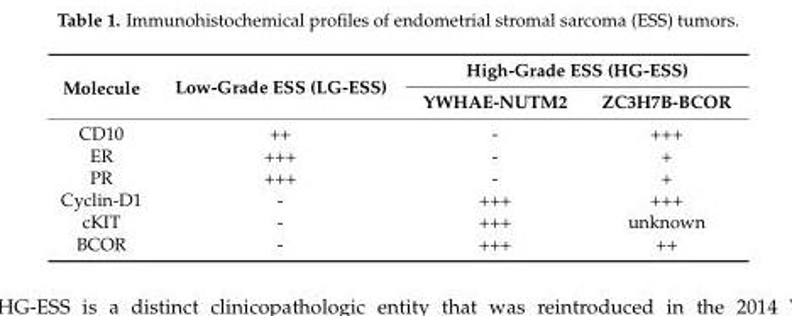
<table><thead><tr><td rowspan="2">Molecule</td><td rowspan="2">Low-Grade ESS (LG-ESS)</td><td colspan="2">High-Grade ESS (HG-ESS)</td></tr><tr><td>YWHAE-NUTM2</td><td>ZC3H7B-BCOR</td></tr></thead><tbody><tr><td>CD10</td><td>++</td><td>-</td><td>+++</td></tr><tr><td>ER PR</td><td>+++ +++</td><td>- -</td><td>+ +</td></tr><tr><td>Cyclin-D1</td><td>-</td><td>+++</td><td>+++</td></tr><tr><td>cKIT</td><td>-</td><td>+++</td><td>unknown</td></tr><tr><td>BCOR</td><td>-</td><td>+++</td><td>++</td></tr></tbody></table>